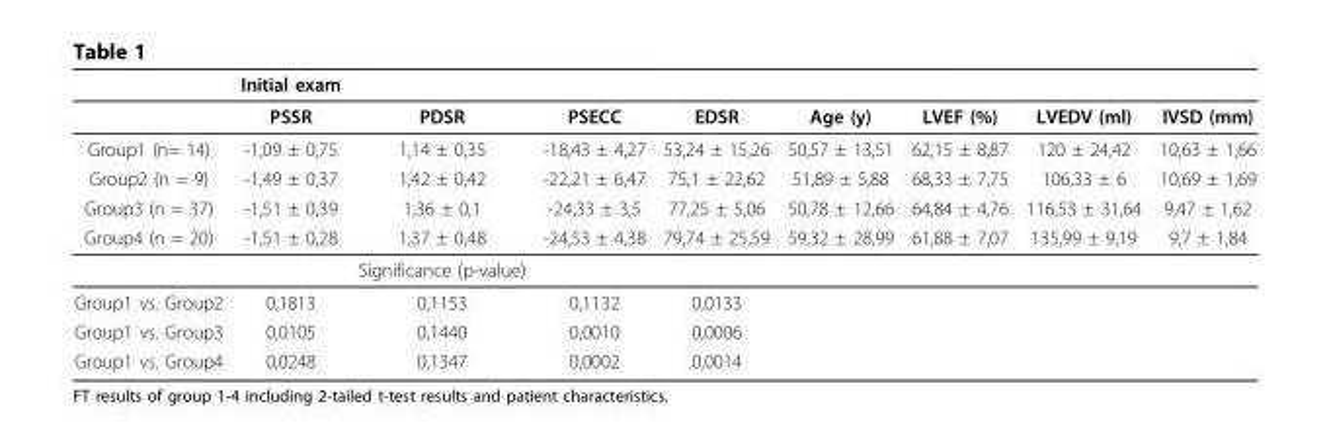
<table><thead><tr><td rowspan="2"></td><td rowspan="2">Initial exam PSSR</td><td rowspan="2">PDSR</td><td rowspan="2">PSECC</td><td rowspan="2">EDSR</td><td rowspan="2">Age (y)</td><td rowspan="2">LVEF (%)</td><td rowspan="2">LVEDV (ml)</td><td rowspan="2">IVSD (mm)</td></tr><tr></tr></thead><tbody><tr><td>Group1 (n= 14)</td><td>-1,09 ± 0,75</td><td>1,14 ± 0,35</td><td>-18,43 ± 4,27</td><td>53,24 ± 15,26</td><td>50,57 ± 13,51</td><td>62,15 ± 8,87</td><td>120 ± 24,42</td><td>10,63 ± 1,66</td></tr><tr><td>Group2 (n = 9)</td><td>-1,49 ± 0,37</td><td>1,42 ± 0,42</td><td>-22,21 ± 6,47</td><td>75,1 ± 22,62</td><td>51,89 ± 5,88</td><td>68,33 ± 7,75</td><td>106,33 ± 6</td><td>10,69 ± 1,69</td></tr><tr><td>Group3 (n = 37)</td><td>-1,51 ± 0,39</td><td>1,36 ± 0,1</td><td>-24,33 ± 3,5</td><td>77,25 ± 5,06</td><td>50,78 ± 12,66</td><td>64,84 ± 4,76</td><td>116,53 ± 31,64</td><td>9,47 ± 1,62</td></tr><tr><td rowspan="2">Group4 (n = 20)</td><td>-1,51 ± 0,28</td><td>1,37 ± 0,48</td><td>-24,53 ± 4,38</td><td>79,74 ± 25,59</td><td>59,32 ± 28,99</td><td>61,88 ± 7,07</td><td>135,99 ± 9,19</td><td>9,7 ± 1,84</td></tr><tr><td></td><td>Significance (p-value)</td><td></td><td></td><td></td><td></td><td></td><td></td></tr><tr><td>Group1 vs. Group2</td><td>0,1813</td><td>0,1153</td><td>0,1132</td><td>0,0133</td><td></td><td></td><td></td><td></td></tr><tr><td>Group1 vs. Group3</td><td>0,0105</td><td>0,1440</td><td>0,0010</td><td>0,0006</td><td></td><td></td><td></td><td></td></tr><tr><td>Group1 vs. Group4</td><td>0,0248</td><td>0,1347</td><td>0,0002</td><td>0,0014</td><td></td><td></td><td></td><td></td></tr></tbody></table>